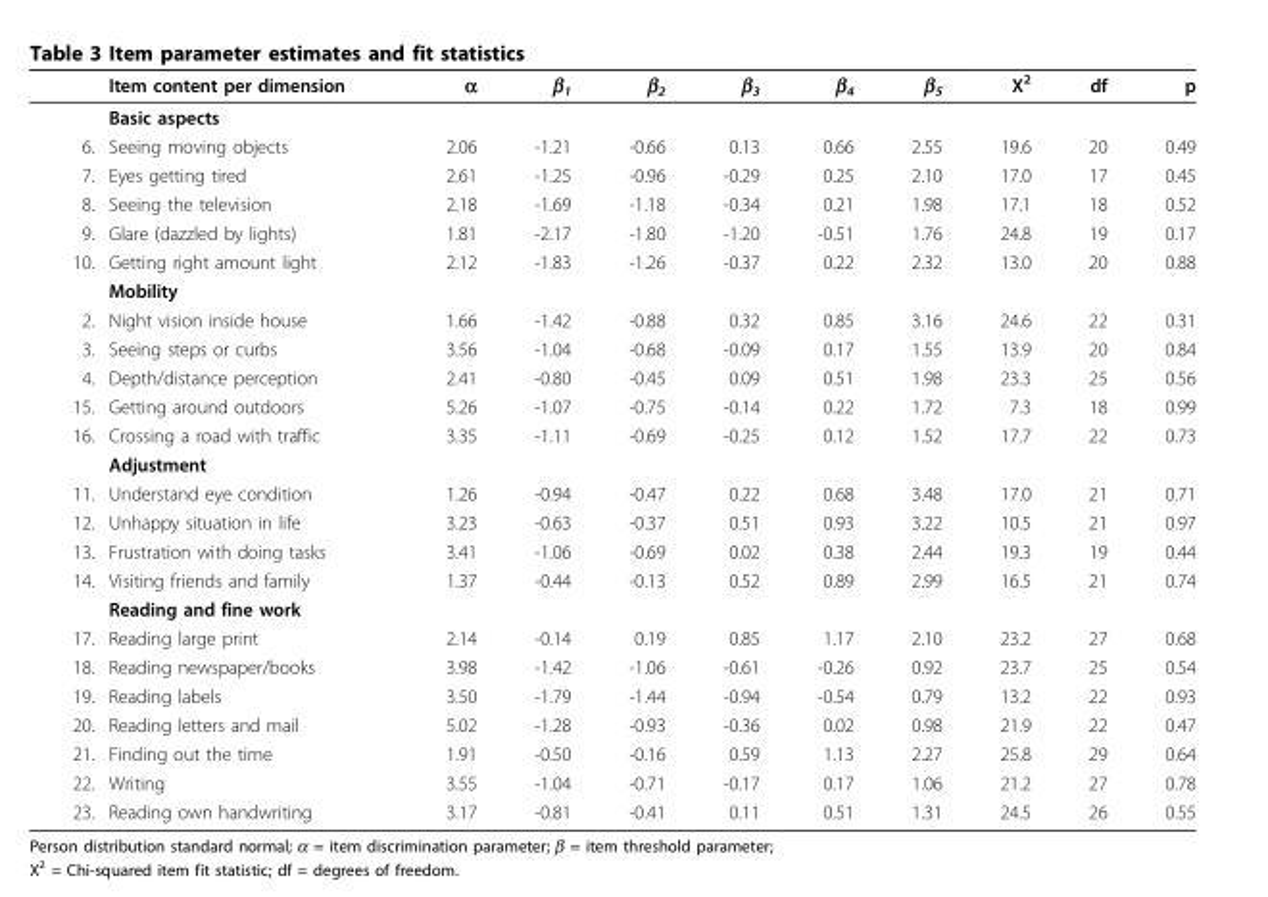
<table><thead><tr><td></td><td>Item content per dimension</td><td>α</td><td>β<sub>1</sub></td><td>β<sub>2</sub></td><td>β<sub>3</sub></td><td>β<sub>4</sub></td><td>β<sub>5</sub></td><td>X<sup>2</sup></td><td>df</td><td>p</td></tr></thead><tbody><tr><td></td><td>Basic aspects</td><td></td><td></td><td></td><td></td><td></td><td></td><td></td><td></td><td></td></tr><tr><td>6.</td><td>Seeing moving objects</td><td>2.06</td><td>-1.21</td><td>-0.66</td><td>0.13</td><td>0.66</td><td>2.55</td><td>19.6</td><td>20</td><td>0.49</td></tr><tr><td>7.</td><td>Eyes getting tired</td><td>2.61</td><td>-1.25</td><td>-0.96</td><td>-0.29</td><td>0.25</td><td>2.10</td><td>17.0</td><td>17</td><td>0.45</td></tr><tr><td>8.</td><td>Seeing the television</td><td>2.18</td><td>-1.69</td><td>-1.18</td><td>-0.34</td><td>0.21</td><td>1.98</td><td>17.1</td><td>18</td><td>0.52</td></tr><tr><td>9.</td><td>Glare (dazzled by lights)</td><td>1.81</td><td>-2.17</td><td>-1.80</td><td>-1.20</td><td>-0.51</td><td>1.76</td><td>24.8</td><td>19</td><td>0.17</td></tr><tr><td rowspan="2">10.</td><td>Getting right amount light</td><td>2.12</td><td>-1.83</td><td>-1.26</td><td>-0.37</td><td>0.22</td><td>2.32</td><td>13.0</td><td>20</td><td>0.88</td></tr><tr><td>Mobility</td><td></td><td></td><td></td><td></td><td></td><td></td><td></td><td></td><td></td></tr><tr><td>2.</td><td>Night vision inside house</td><td>1.66</td><td>-1.42</td><td>-0.88</td><td>0.32</td><td>0.85</td><td>3.16</td><td>24.6</td><td>22</td><td>0.31</td></tr><tr><td>3.</td><td>Seeing steps or curbs</td><td>3.56</td><td>-1.04</td><td>-0.68</td><td>-0.09</td><td>0.17</td><td>1.55</td><td>13.9</td><td>20</td><td>0.84</td></tr><tr><td>4.</td><td>Depth/distance perception</td><td>2.41</td><td>-0.80</td><td>-0.45</td><td>0.09</td><td>0.51</td><td>1.98</td><td>23.3</td><td>25</td><td>0.56</td></tr><tr><td>15.</td><td>Getting around outdoors</td><td>5.26</td><td>-1.07</td><td>-0.75</td><td>-0.14</td><td>0.22</td><td>1.72</td><td>7.3</td><td>18</td><td>0.99</td></tr><tr><td rowspan="2">16.</td><td>Crossing a road with traffic</td><td>3.35</td><td>-1.11</td><td>-0.69</td><td>-0.25</td><td>0.12</td><td>1.52</td><td>17.7</td><td>22</td><td>0.73</td></tr><tr><td>Adjustment</td><td></td><td></td><td></td><td></td><td></td><td></td><td></td><td></td><td></td></tr><tr><td>11.</td><td>Understand eye condition</td><td>1.26</td><td>-0.94</td><td>-0.47</td><td>0.22</td><td>0.68</td><td>3.48</td><td>17.0</td><td>21</td><td>0.71</td></tr><tr><td>12.</td><td>Unhappy situation in life</td><td>3.23</td><td>-0.63</td><td>-0.37</td><td>0.51</td><td>0.93</td><td>3.22</td><td>10.5</td><td>21</td><td>0.97</td></tr><tr><td>13.</td><td>Frustration with doing tasks</td><td>3.41</td><td>-1.06</td><td>-0.69</td><td>0.02</td><td>0.38</td><td>2.44</td><td>19.3</td><td>19</td><td>0.44</td></tr><tr><td rowspan="2">14.</td><td>Visiting friends and family</td><td>1.37</td><td>-0.44</td><td>-0.13</td><td>0.52</td><td>0.89</td><td>2.99</td><td>16.5</td><td>21</td><td>0.74</td></tr><tr><td>Reading and fine work</td><td></td><td></td><td></td><td></td><td></td><td></td><td></td><td></td><td></td></tr><tr><td>17.</td><td>Reading large print</td><td>2.14</td><td>-0.14</td><td>0.19</td><td>0.85</td><td>1.17</td><td>2.10</td><td>23.2</td><td>27</td><td>0.68</td></tr><tr><td>18.</td><td>Reading newspaper/books</td><td>3.98</td><td>-1.42</td><td>-1.06</td><td>-0.61</td><td>-0.26</td><td>0.92</td><td>23.7</td><td>25</td><td>0.54</td></tr><tr><td>19.</td><td>Reading labels</td><td>3.50</td><td>-1.79</td><td>-1.44</td><td>-0.94</td><td>-0.54</td><td>0.79</td><td>13.2</td><td>22</td><td>0.93</td></tr><tr><td>20.</td><td>Reading letters and mail</td><td>5.02</td><td>-1.28</td><td>-0.93</td><td>-0.36</td><td>0.02</td><td>0.98</td><td>21.9</td><td>22</td><td>0.47</td></tr><tr><td>21.</td><td>Finding out the time</td><td>1.91</td><td>-0.50</td><td>-0.16</td><td>0.59</td><td>1.13</td><td>2.27</td><td>25.8</td><td>29</td><td>0.64</td></tr><tr><td>22.</td><td>Writing</td><td>3.55</td><td>-1.04</td><td>-0.71</td><td>-0.17</td><td>0.17</td><td>1.06</td><td>21.2</td><td>27</td><td>0.78</td></tr><tr><td>23.</td><td>Reading own handwriting</td><td>3.17</td><td>-0.81</td><td>-0.41</td><td>0.11</td><td>0.51</td><td>1.31</td><td>24.5</td><td>26</td><td>0.55</td></tr></tbody></table>